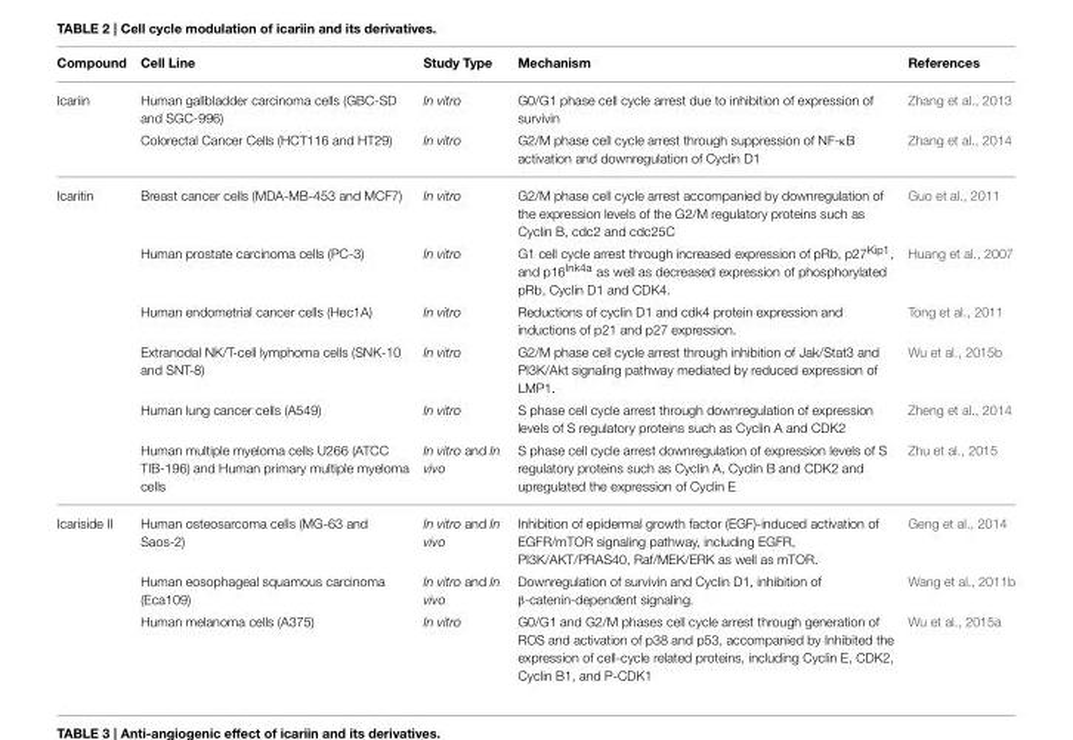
<table><thead><tr><td>Compound</td><td>Cell Line</td><td>Study Type</td><td>Mechanism</td><td>References</td></tr></thead><tbody><tr><td rowspan="2">Icariin</td><td>Human gallbladder carcinoma cells (GBC-SD and SGC-996)</td><td>In vitro</td><td>G0/G1 phase cell cycle arrest due to inhibition of expression of survivin</td><td>Zhang et al., 2013</td></tr><tr><td>Colorectal Cancer Cells (HCT116 and HT29)</td><td>In vitro</td><td>G2/M phase cell cycle arrest through suppression of NF-κB activation and downregulation of Cyclin D1</td><td>Zhang et al., 2014</td></tr><tr><td rowspan="6">Icaritin</td><td>Breast cancer cells (MDA-MB-453 and MCF7)</td><td>In vitro</td><td>G2/M phase cell cycle arrest accompanied by downregulation of the expression levels of the G2/M regulatory proteins such as Cyclin B, cdc2 and cdc25C</td><td>Guo et al., 2011</td></tr><tr><td>Human prostate carcinoma cells (PC-3)</td><td>In vitro</td><td>G1 cell cycle arrest through increased expression of pRb, p27<sup>Kip1</sup>, and p16<sup>Ink4a</sup> as well as decreased expression of phosphorylated pRb, Cyclin D1 and CDK4.</td><td>Huang et al., 2007</td></tr><tr><td>Human endometrial cancer cells (Hec1A)</td><td>In vitro</td><td>Reductions of cyclin D1 and cdk4 protein expression and inductions of p21 and p27 expression.</td><td>Tong et al., 2011</td></tr><tr><td>Extranodal NK/T-cell lymphoma cells (SNK-10 and SNT-8)</td><td>In vitro</td><td>G2/M phase cell cycle arrest through inhibition of Jak/Stat3 and PI3K/Akt signaling pathway mediated by reduced expression of LMP1.</td><td>Wu et al., 2015b</td></tr><tr><td>Human lung cancer cells (A549)</td><td>In vitro</td><td>S phase cell cycle arrest through downregulation of expression levels of S regulatory proteins such as Cyclin A and CDK2</td><td>Zheng et al., 2014</td></tr><tr><td>Human multiple myeloma cells U266 (ATCC TIB-196) and Human primary multiple myeloma cells</td><td>In vitro and In vivo</td><td>S phase cell cycle arrest downregulation of expression levels of S regulatory proteins such as Cyclin A, Cyclin B and CDK2 and upregulated the expression of Cyclin E</td><td>Zhu et al., 2015</td></tr><tr><td rowspan="3">Icariside II</td><td>Human osteosarcoma cells (MG-63 and Saos-2)</td><td>In vitro and In vivo</td><td>Inhibition of epidermal growth factor (EGF)-induced activation of EGFR/mTOR signaling pathway, including EGFR, PI3K/AKT/PRAS40, Raf/MEK/ERK as well as mTOR.</td><td>Geng et al., 2014</td></tr><tr><td>Human eosophageal squamous carcinoma (Eca109)</td><td>In vitro and In vivo</td><td>Downregulation of survivin and Cyclin D1, inhibition of β-catenin-dependent signaling.</td><td>Wang et al., 2011b</td></tr><tr><td>Human melanoma cells (A375)</td><td>In vitro</td><td>G0/G1 and G2/M phases cell cycle arrest through generation of ROS and activation of p38 and p53, accompanied by Inhibited the expression of cell-cycle related proteins, including Cyclin E, CDK2, Cyclin B1, and P-CDK1</td><td>Wu et al., 2015a</td></tr></tbody></table>